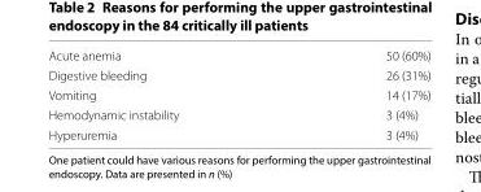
<table><tbody><tr><td>Acute anemia</td><td>50 (60%)</td></tr><tr><td>Digestive bleeding</td><td>26 (31%)</td></tr><tr><td>Vomiting</td><td>14 (17%)</td></tr><tr><td>Hemodynamic instability</td><td>3 (4%)</td></tr><tr><td>Hyperuremia</td><td>3 (4%)</td></tr></tbody></table>